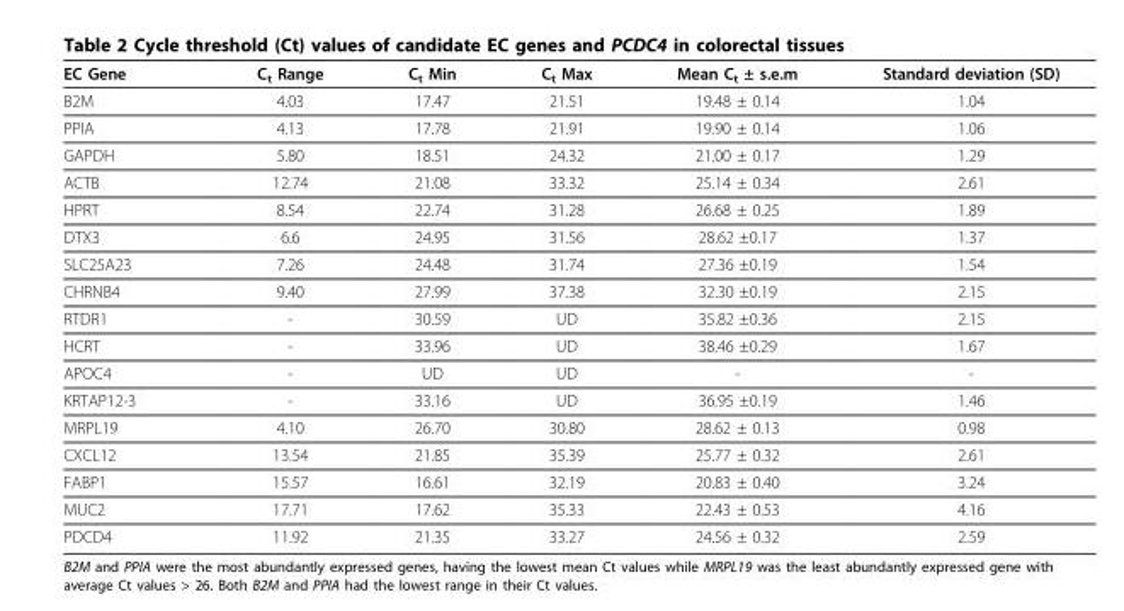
<table><thead><tr><td>EC Gene</td><td>C<sub>t</sub> Range</td><td>C<sub>t</sub> Min</td><td>C<sub>t</sub> Max</td><td>Mean C<sub>t</sub> ± s.e.m</td><td>Standard deviation (SD)</td></tr></thead><tbody><tr><td>B2M</td><td>4.03</td><td>17.47</td><td>21.51</td><td>19.48 ± 0.14</td><td>1.04</td></tr><tr><td>PPIA</td><td>4.13</td><td>17.78</td><td>21.91</td><td>19.90 ± 0.14</td><td>1.06</td></tr><tr><td>GAPDH</td><td>5.80</td><td>18.51</td><td>24.32</td><td>21.00 ± 0.17</td><td>1.29</td></tr><tr><td>ACTB</td><td>12.74</td><td>21.08</td><td>33.32</td><td>25.14 ± 0.34</td><td>2.61</td></tr><tr><td>HPRT</td><td>8.54</td><td>22.74</td><td>31.28</td><td>26.68 ± 0.25</td><td>1.89</td></tr><tr><td>DTX3</td><td>6.6</td><td>24.95</td><td>31.56</td><td>28.62 ±0.17</td><td>1.37</td></tr><tr><td>SLC25A23</td><td>7.26</td><td>24.48</td><td>31.74</td><td>27.36 ±0.19</td><td>1.54</td></tr><tr><td>CHRNB4</td><td>9.40</td><td>27.99</td><td>37.38</td><td>32.30 ±0.19</td><td>2.15</td></tr><tr><td>RTDR1</td><td>-</td><td>30.59</td><td>UD</td><td>35.82 ±0.36</td><td>2.15</td></tr><tr><td>HCRT</td><td>-</td><td>33.96</td><td>UD</td><td>38.46 ±0.29</td><td>1.67</td></tr><tr><td>APOC4</td><td>-</td><td>UD</td><td>UD</td><td>-</td><td>-</td></tr><tr><td>KRTAP12-3</td><td>-</td><td>33.16</td><td>UD</td><td>36.95 ±0.19</td><td>1.46</td></tr><tr><td>MRPL19</td><td>4.10</td><td>26.70</td><td>30.80</td><td>28.62 ± 0.13</td><td>0.98</td></tr><tr><td>CXCL12</td><td>13.54</td><td>21.85</td><td>35.39</td><td>25.77 ± 0.32</td><td>2.61</td></tr><tr><td>FABP1</td><td>15.57</td><td>16.61</td><td>32.19</td><td>20.83 ± 0.40</td><td>3.24</td></tr><tr><td>MUC2</td><td>17.71</td><td>17.62</td><td>35.33</td><td>22.43 ± 0.53</td><td>4.16</td></tr><tr><td>PDCD4</td><td>11.92</td><td>21.35</td><td>33.27</td><td>24.56 ± 0.32</td><td>2.59</td></tr></tbody></table>